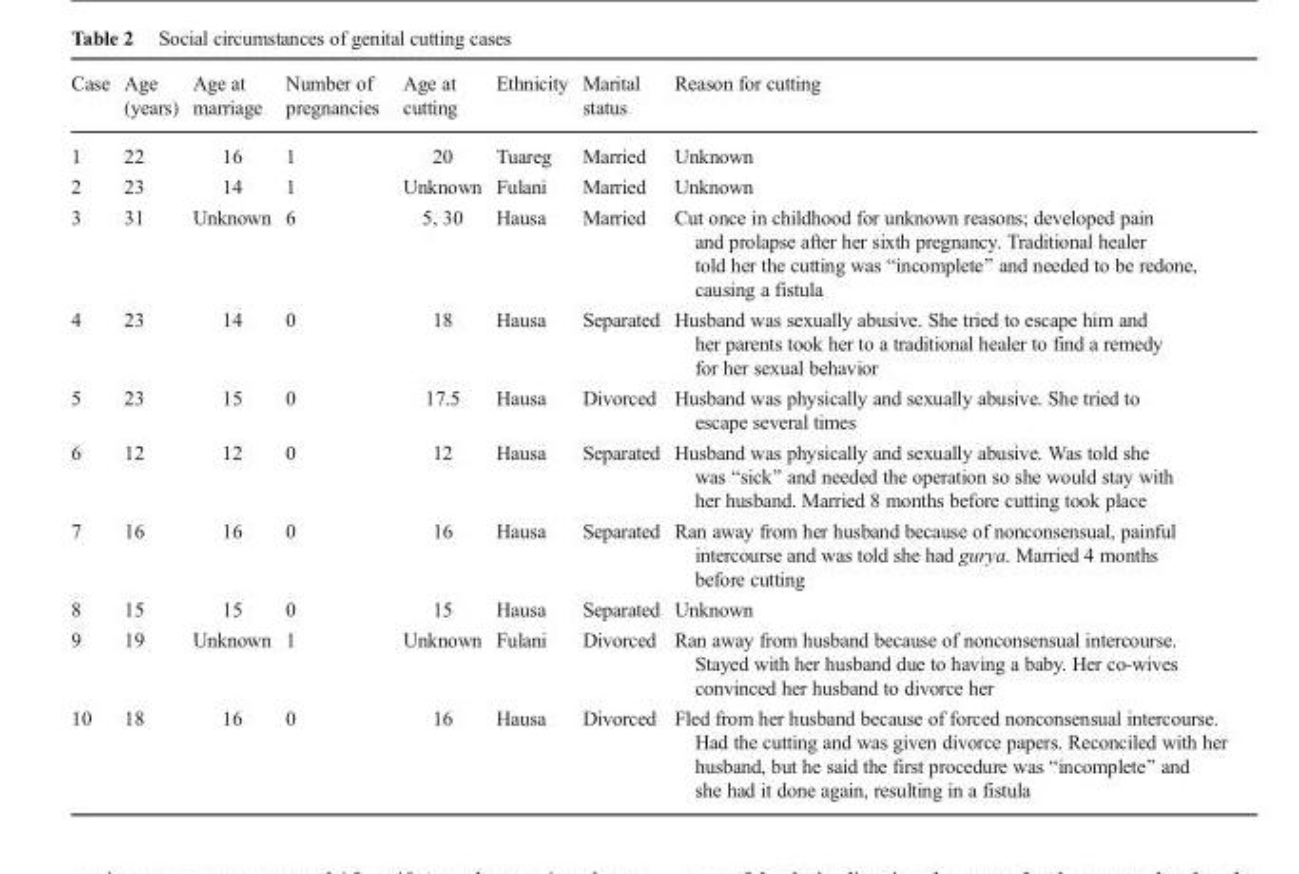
<table><thead><tr><td>Case</td><td>Age (years)</td><td>Age at marriage</td><td>Number of pregnancies</td><td>Age at cutting</td><td>Ethnicity</td><td>Marital status</td><td>Reason for cutting</td></tr></thead><tbody><tr><td>1</td><td>22</td><td>16</td><td>1</td><td>20</td><td>Tuareg</td><td>Married</td><td>Unknown</td></tr><tr><td>2</td><td>23</td><td>14</td><td>1</td><td>Unknown</td><td>Fulani</td><td>Married</td><td>Unknown</td></tr><tr><td>3</td><td>31</td><td>Unknown</td><td>6</td><td>5, 30</td><td>Hausa</td><td>Married</td><td>Cut once in childhood for unknown reasons; developed pain and prolapse after her sixth pregnancy. Traditional healer told her the cutting was “incomplete” and needed to be redone, causing a fistula</td></tr><tr><td>4</td><td>23</td><td>14</td><td>0</td><td>18</td><td>Hausa</td><td>Separated</td><td>Husband was sexually abusive. She tried to escape him and her parents took her to a traditional healer to find a remedy for her sexual behavior</td></tr><tr><td>5</td><td>23</td><td>15</td><td>0</td><td>17.5</td><td>Hausa</td><td>Divorced</td><td>Husband was physically and sexually abusive. She tried to escape several times</td></tr><tr><td>6</td><td>12</td><td>12</td><td>0</td><td>12</td><td>Hausa</td><td>Separated</td><td>Husband was physically and sexually abusive. Was told she was “sick” and needed the operation so she would stay with her husband. Married 8 months before cutting took place</td></tr><tr><td>7</td><td>16</td><td>16</td><td>0</td><td>16</td><td>Hausa</td><td>Separated</td><td>Ran away from her husband because of nonconsensual, painful intercourse and was told she had gurya. Married 4 months before cutting</td></tr><tr><td>8</td><td>15</td><td>15</td><td>0</td><td>15</td><td>Hausa</td><td>Separated</td><td>Unknown</td></tr><tr><td>9</td><td>19</td><td>Unknown</td><td>1</td><td>Unknown</td><td>Fulani</td><td>Divorced</td><td>Ran away from husband because of nonconsensual intercourse. Stayed with her husband due to having a baby. Her co-wives convinced her husband to divorce her</td></tr><tr><td>10</td><td>18</td><td>16</td><td>0</td><td>16</td><td>Hausa</td><td>Divorced</td><td>Fled from her husband because of forced nonconsensual intercourse. Had the cutting and was given divorce papers. Reconciled with her husband, but he said the first procedure was “incomplete” and she had it done again, resulting in a fistula</td></tr></tbody></table>